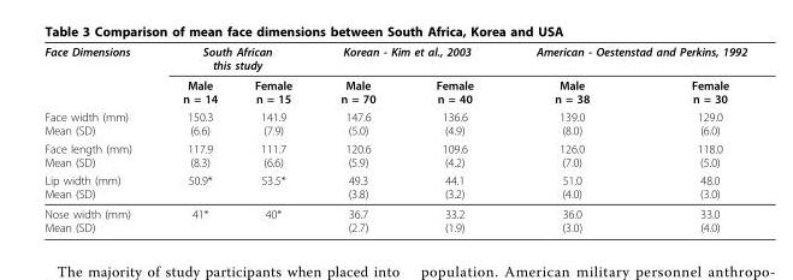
<table><thead><tr><td rowspan="5">Face Dimensions Face width (mm) Mean (SD) Face length (mm) Mean (SD) Lip width (mm) Mean (SD)</td><td colspan="2">South African this study</td><td colspan="2">Korean - Kim et al., 2003</td><td colspan="2">American - Oestenstad and Perkins, 1992</td></tr><tr><td rowspan="4">Male n = 14 150.3 (6.6) 117.9 (8.3) 50.9*</td><td rowspan="4">Female n = 15 141.9 (7.9) 111.7 (6.6) 53.5*</td><td rowspan="4">Male n = 70 147.6 (5.0) 120.6 (5.9) 49.3 (3.8)</td><td rowspan="4">Female n = 40 136.6 (4.9) 109.6 (4.2) 44.1 (3.2)</td><td rowspan="4">Male n = 38 139.0 (8.0) 126.0 (7.0) 51.0 (4.0)</td><td rowspan="4">Female n = 30 129.0 (6.0) 118.0 (5.0) 48.0 (3.0)</td></tr><tr></tr><tr></tr><tr></tr></thead><tbody><tr><td>Nose width (mm) Mean (SD)</td><td>41*</td><td>40*</td><td>36.7 (2.7)</td><td>33.2 (1.9)</td><td>36.0 (3.0)</td><td>33.0 (4.0)</td></tr></tbody></table>